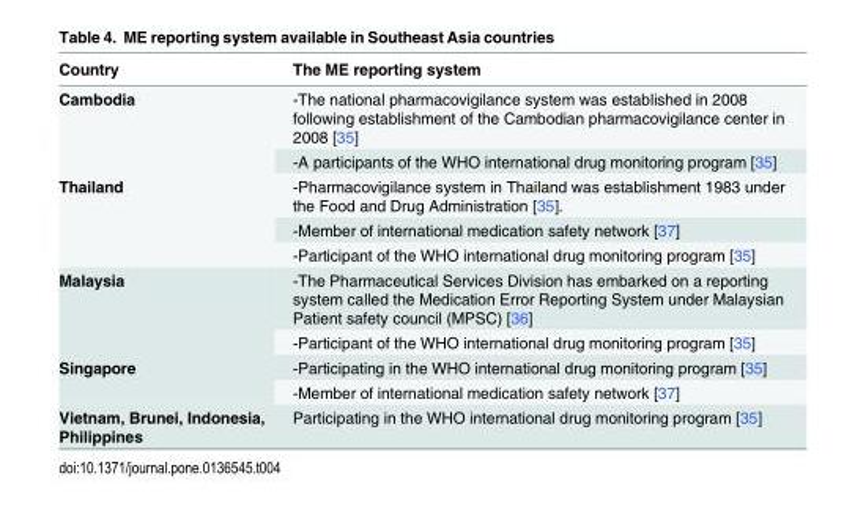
<table><thead><tr><td>Country</td><td>The ME reporting system</td></tr></thead><tbody><tr><td rowspan="2">Cambodia</td><td>-The national pharmacovigilance system was established in 2008 following establishment of the Cambodian pharmacovigilance center in 2008 [35]</td></tr><tr><td>-A participants of the WHO international drug monitoring program [35]</td></tr><tr><td rowspan="3">Thailand</td><td>-Pharmacovigilance system in Thailand was establishment 1983 under the Food and Drug Administration [35].</td></tr><tr><td>-Member of international medication safety network [37]</td></tr><tr><td>-Participant of the WHO international drug monitoring program [35]</td></tr><tr><td rowspan="2">Malaysia</td><td>-The Pharmaceutical Services Division has embarked on a reporting system called the Medication Error Reporting System under Malaysian Patient safety council (MPSC) [36]</td></tr><tr><td>-Participant of the WHO international drug monitoring program [35]</td></tr><tr><td rowspan="2">Singapore</td><td>-Participating in the WHO international drug monitoring program [35]</td></tr><tr><td>-Member of international medication safety network [37]</td></tr><tr><td>Vietnam, Brunei, Indonesia, Philippines</td><td>Participating in the WHO international drug monitoring program [35]</td></tr></tbody></table>